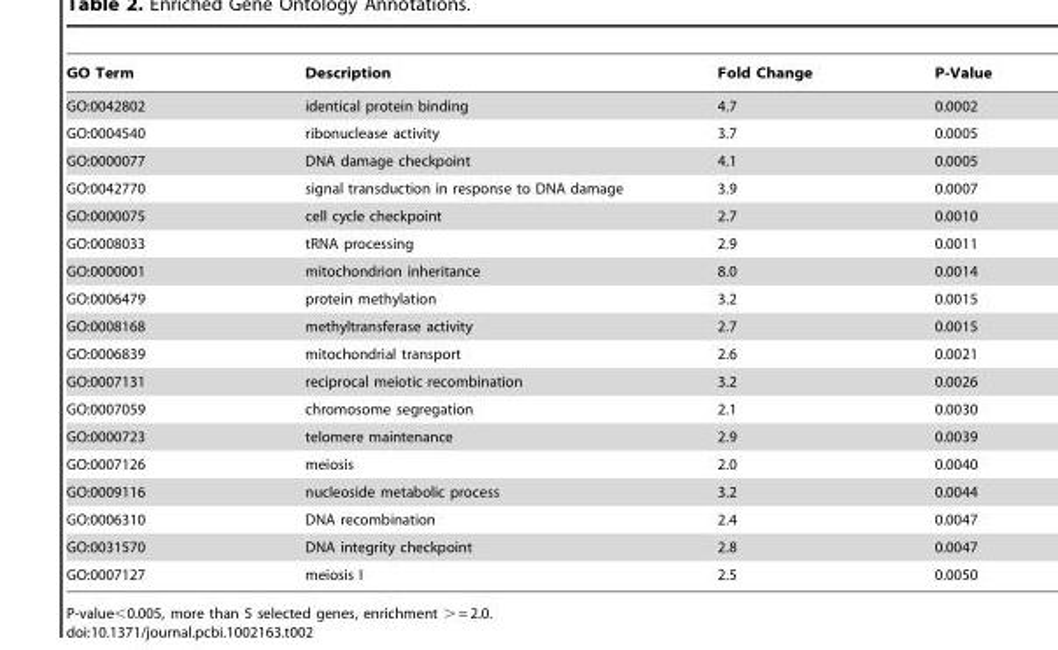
<table><thead><tr><td>GO Term</td><td>Description</td><td>Fold Change</td><td>P-Value</td></tr></thead><tbody><tr><td>GO:0042802</td><td>identical protein binding</td><td>4.7</td><td>0.0002</td></tr><tr><td>GO:0004540</td><td>ribonuclease activity</td><td>3.7</td><td>0.0005</td></tr><tr><td>GO:0000077</td><td>DNA damage checkpoint</td><td>4.1</td><td>0.0005</td></tr><tr><td>GO:0042770</td><td>signal transduction in response to DNA damage</td><td>3.9</td><td>0.0007</td></tr><tr><td>GO:0000075</td><td>cell cycle checkpoint</td><td>2.7</td><td>0.0010</td></tr><tr><td>GO:0008033</td><td>tRNA processing</td><td>2.9</td><td>0.0011</td></tr><tr><td>GO:0000001</td><td>mitochondrion inheritance</td><td>8.0</td><td>0.0014</td></tr><tr><td>GO:0006479</td><td>protein methylation</td><td>3.2</td><td>0.0015</td></tr><tr><td>GO:0008168</td><td>methyltransferase activity</td><td>2.7</td><td>0.0015</td></tr><tr><td>GO:0006839</td><td>mitochondrial transport</td><td>2.6</td><td>0.0021</td></tr><tr><td>GO:0007131</td><td>reciprocal meiotic recombination</td><td>3.2</td><td>0.0026</td></tr><tr><td>GO:0007059</td><td>chromosome segregation</td><td>2.1</td><td>0.0030</td></tr><tr><td>GO:0000723</td><td>telomere maintenance</td><td>2.9</td><td>0.0039</td></tr><tr><td>GO:0007126</td><td>meiosis</td><td>2.0</td><td>0.0040</td></tr><tr><td>GO:0009116</td><td>nucleoside metabolic process</td><td>3.2</td><td>0.0044</td></tr><tr><td>GO:0006310</td><td>DNA recombination</td><td>2.4</td><td>0.0047</td></tr><tr><td>GO:0031570</td><td>DNA integrity checkpoint</td><td>2.8</td><td>0.0047</td></tr><tr><td>GO:0007127</td><td>meiosis I</td><td>2.5</td><td>0.0050</td></tr></tbody></table>